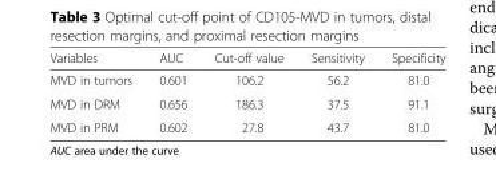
<table><thead><tr><td>Variables</td><td>AUC</td><td>Cut-off value</td><td>Sensitivity</td><td>Specificity</td></tr></thead><tbody><tr><td>MVD in tumors</td><td>0.601</td><td>106.2</td><td>56.2</td><td>81.0</td></tr><tr><td>MVD in DRM</td><td>0.656</td><td>186.3</td><td>37.5</td><td>91.1</td></tr><tr><td>MVD in PRM</td><td>0.602</td><td>27.8</td><td>43.7</td><td>81.0</td></tr></tbody></table>